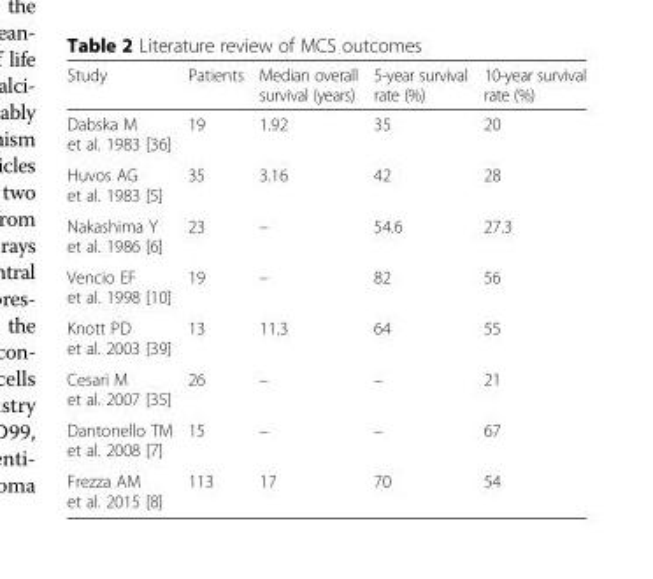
<table><thead><tr><td>Study</td><td>Patients</td><td>Median overall survival (years)</td><td>5-year survival rate (%)</td><td>10-year survival rate (%)</td></tr></thead><tbody><tr><td>Dabska M et al. 1983 [36]</td><td>19</td><td>1.92</td><td>35</td><td>20</td></tr><tr><td>Huvos AG et al. 1983 [5]</td><td>35</td><td>3.16</td><td>42</td><td>28</td></tr><tr><td>Nakashima Y et al. 1986 [6]</td><td>23</td><td>–</td><td>54.6</td><td>27.3</td></tr><tr><td>Vencio EF et al. 1998 [10]</td><td>19</td><td>–</td><td>82</td><td>56</td></tr><tr><td>Knott PD et al. 2003 [39]</td><td>13</td><td>11.3</td><td>64</td><td>55</td></tr><tr><td>Cesari M et al. 2007 [35]</td><td>26</td><td>–</td><td>–</td><td>21</td></tr><tr><td>Dantonello TM et al. 2008 [7]</td><td>15</td><td>–</td><td>–</td><td>67</td></tr><tr><td>Frezza AM et al. 2015 [8]</td><td>113</td><td>17</td><td>70</td><td>54</td></tr></tbody></table>